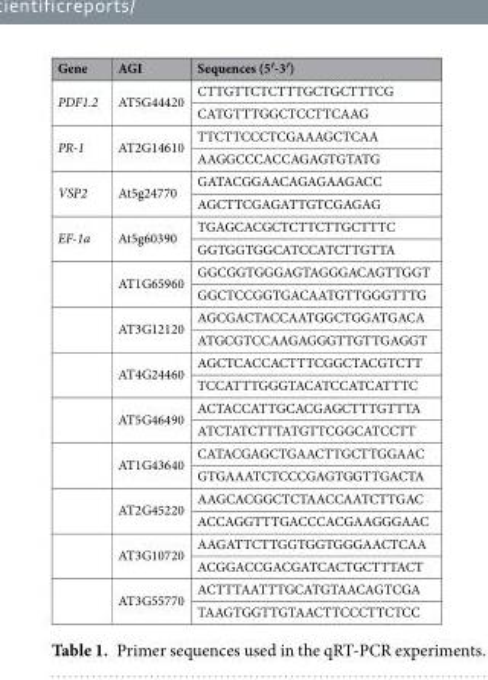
<table><thead><tr><td>Gene</td><td>AGI</td><td>Sequences (5′-3′)</td></tr></thead><tbody><tr><td rowspan="2">PDF1.2</td><td rowspan="2">AT5G44420</td><td>CTTGTTCTCTTTGCTGCTTTCG</td></tr><tr><td>CATGTTTGGCTCCTTCAAG</td></tr><tr><td rowspan="2">PR-1</td><td rowspan="2">AT2G14610</td><td>TTCTTCCCTCGAAAGCTCAA</td></tr><tr><td>AAGGCCCACCAGAGTGTATG</td></tr><tr><td rowspan="2">VSP2</td><td rowspan="2">At5g24770</td><td>GATACGGAACAGAGAAGACC</td></tr><tr><td>AGCTTCGAGATTGTCGAGAG</td></tr><tr><td rowspan="18">EF-1a</td><td rowspan="2">At5g60390</td><td>TGAGCACGCTCTTCTTGCTTTC</td></tr><tr><td>GGTGGTGGCATCCATCTTGTTA</td></tr><tr><td rowspan="2">AT1G65960</td><td>GGCGGTGGGAGTAGGGACAGTTGGT</td></tr><tr><td>GGCTCCGGTGACAATGTTGGGTTTG</td></tr><tr><td rowspan="2">AT3G12120</td><td>AGCGACTACCAATGGCTGGATGACA</td></tr><tr><td>ATGCGTCCAAGAGGGTTGTTGAGGT</td></tr><tr><td rowspan="2">AT4G24460</td><td>AGCTCACCACTTTCGGCTACGTCTT</td></tr><tr><td>TCCATTTGGGTACATCCATCATTTC</td></tr><tr><td rowspan="2">AT5G46490</td><td>ACTACCATTGCACGAGCTTTGTTTA</td></tr><tr><td>ATCTATCTTTATGTTCGGCATCCTT</td></tr><tr><td rowspan="2">AT1G43640</td><td>CATACGAGCTGAACTTGCTTGGAAC</td></tr><tr><td>GTGAAATCTCCCGAGTGGTTGACTA</td></tr><tr><td rowspan="2">AT2G45220</td><td>AAGCACGGCTCTAACCAATCTTGAC</td></tr><tr><td>ACCAGGTTTGACCCACGAAGGGAAC</td></tr><tr><td rowspan="2">AT3G10720</td><td>AAGATTCTTGGTGGTGGGAACTCAA</td></tr><tr><td>ACGGACCGACGATCACTGCTTTACT</td></tr><tr><td rowspan="2">AT3G55770</td><td>ACTTTAATTTGCATGTAACAGTCGA</td></tr><tr><td>TAAGTGGTTGTAACTTCCCTTCTCC</td></tr></tbody></table>